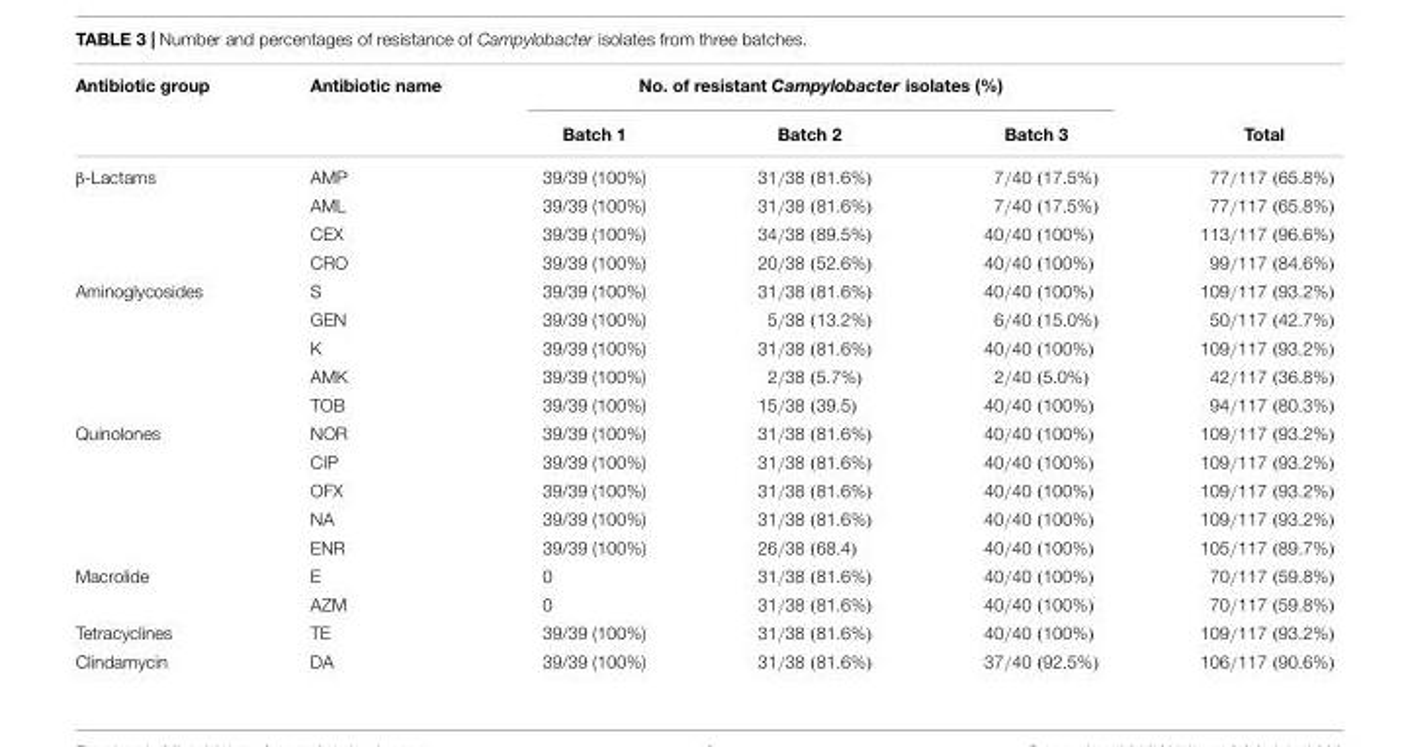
<table><thead><tr><td rowspan="2">Antibiotic group</td><td rowspan="2">Antibiotic name</td><td colspan="3">No. of resistant Campylobacter isolates (%)</td><td rowspan="2">Total</td></tr><tr><td>Batch 1</td><td>Batch 2</td><td>Batch 3</td></tr></thead><tbody><tr><td rowspan="4">β-Lactams</td><td>AMP</td><td>39/39 (100%)</td><td>31/38 (81.6%)</td><td>7/40 (17.5%)</td><td>77/117 (65.8%)</td></tr><tr><td>AML</td><td>39/39 (100%)</td><td>31/38 (81.6%)</td><td>7/40 (17.5%)</td><td>77/117 (65.8%)</td></tr><tr><td>CEX</td><td>39/39 (100%)</td><td>34/38 (89.5%)</td><td>40/40 (100%)</td><td>113/117 (96.6%)</td></tr><tr><td>CRO</td><td>39/39 (100%)</td><td>20/38 (52.6%)</td><td>40/40 (100%)</td><td>99/117 (84.6%)</td></tr><tr><td rowspan="5">Aminoglycosides</td><td>S</td><td>39/39 (100%)</td><td>31/38 (81.6%)</td><td>40/40 (100%)</td><td>109/117 (93.2%)</td></tr><tr><td>GEN</td><td>39/39 (100%)</td><td>5/38 (13.2%)</td><td>6/40 (15.0%)</td><td>50/117 (42.7%)</td></tr><tr><td>K</td><td>39/39 (100%)</td><td>31/38 (81.6%)</td><td>40/40 (100%)</td><td>109/117 (93.2%)</td></tr><tr><td>AMK</td><td>39/39 (100%)</td><td>2/38 (5.7%)</td><td>2/40 (5.0%)</td><td>42/117 (36.8%)</td></tr><tr><td>TOB</td><td>39/39 (100%)</td><td>15/38 (39.5)</td><td>40/40 (100%)</td><td>94/117 (80.3%)</td></tr><tr><td rowspan="5">Quinolones</td><td>NOR</td><td>39/39 (100%)</td><td>31/38 (81.6%)</td><td>40/40 (100%)</td><td>109/117 (93.2%)</td></tr><tr><td>CIP</td><td>39/39 (100%)</td><td>31/38 (81.6%)</td><td>40/40 (100%)</td><td>109/117 (93.2%)</td></tr><tr><td>OFX</td><td>39/39 (100%)</td><td>31/38 (81.6%)</td><td>40/40 (100%)</td><td>109/117 (93.2%)</td></tr><tr><td>NA</td><td>39/39 (100%)</td><td>31/38 (81.6%)</td><td>40/40 (100%)</td><td>109/117 (93.2%)</td></tr><tr><td>ENR</td><td>39/39 (100%)</td><td>26/38 (68.4)</td><td>40/40 (100%)</td><td>105/117 (89.7%)</td></tr><tr><td rowspan="2">Macrolide</td><td>E</td><td>0</td><td>31/38 (81.6%)</td><td>40/40 (100%)</td><td>70/117 (59.8%)</td></tr><tr><td>AZM</td><td>0</td><td>31/38 (81.6%)</td><td>40/40 (100%)</td><td>70/117 (59.8%)</td></tr><tr><td>Tetracyclines</td><td>TE</td><td>39/39 (100%)</td><td>31/38 (81.6%)</td><td>40/40 (100%)</td><td>109/117 (93.2%)</td></tr><tr><td>Clindamycin</td><td>DA</td><td>39/39 (100%)</td><td>31/38 (81.6%)</td><td>37/40 (92.5%)</td><td>106/117 (90.6%)</td></tr></tbody></table>